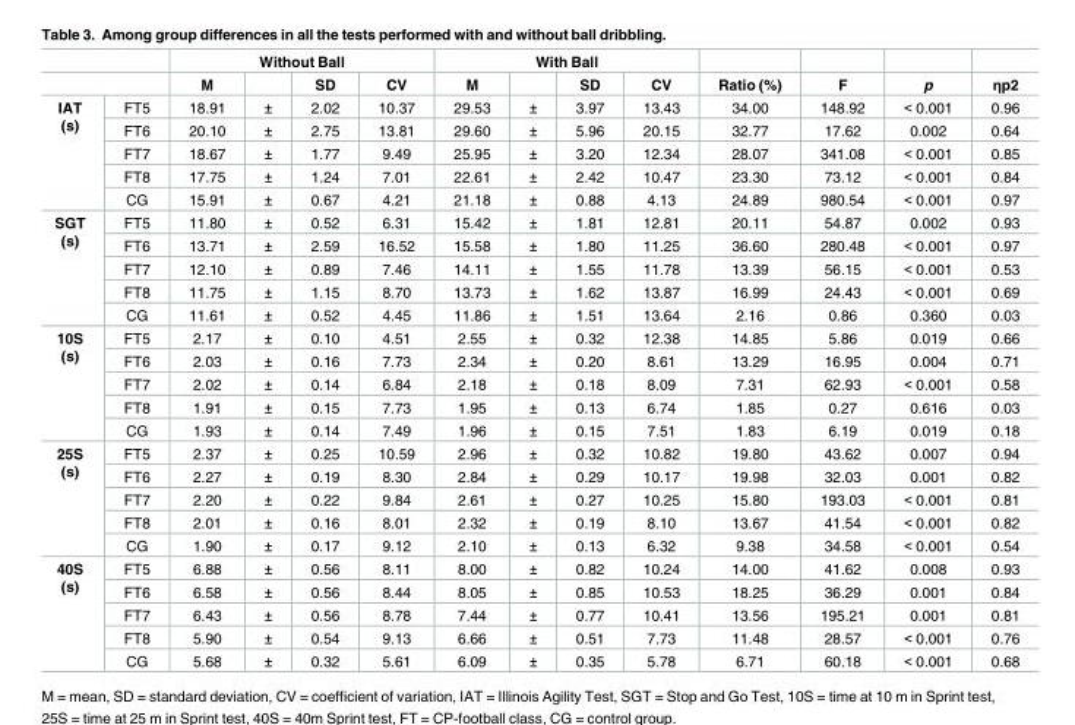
<table><thead><tr><td rowspan="2"></td><td rowspan="2"></td><td colspan="4">Without Ball</td><td colspan="4">With Ball</td><td rowspan="2">Ratio (%)</td><td rowspan="2">F</td><td rowspan="2">p</td><td rowspan="2">ηp2</td></tr><tr><td>M</td><td></td><td>SD</td><td>CV</td><td>M</td><td></td><td>SD</td><td>CV</td></tr></thead><tbody><tr><td rowspan="5">IAT (s)</td><td>FT5</td><td>18.91</td><td>±</td><td>2.02</td><td>10.37</td><td>29.53</td><td>±</td><td>3.97</td><td>13.43</td><td>34.00</td><td>148.92</td><td>&lt; 0.001</td><td>0.96</td></tr><tr><td>FT6</td><td>20.10</td><td>±</td><td>2.75</td><td>13.81</td><td>29.60</td><td>±</td><td>5.96</td><td>20.15</td><td>32.77</td><td>17.62</td><td>0.002</td><td>0.64</td></tr><tr><td>FT7</td><td>18.67</td><td>±</td><td>1.77</td><td>9.49</td><td>25.95</td><td>±</td><td>3.20</td><td>12.34</td><td>28.07</td><td>341.08</td><td>&lt; 0.001</td><td>0.85</td></tr><tr><td>FT8</td><td>17.75</td><td>±</td><td>1.24</td><td>7.01</td><td>22.61</td><td>±</td><td>2.42</td><td>10.47</td><td>23.30</td><td>73.12</td><td>&lt; 0.001</td><td>0.84</td></tr><tr><td>CG</td><td>15.91</td><td>±</td><td>0.67</td><td>4.21</td><td>21.18</td><td>±</td><td>0.88</td><td>4.13</td><td>24.89</td><td>980.54</td><td>&lt; 0.001</td><td>0.97</td></tr><tr><td rowspan="5">SGT (s)</td><td>FT5</td><td>11.80</td><td>±</td><td>0.52</td><td>6.31</td><td>15.42</td><td>±</td><td>1.81</td><td>12.81</td><td>20.11</td><td>54.87</td><td>0.002</td><td>0.93</td></tr><tr><td>FT6</td><td>13.71</td><td>±</td><td>2.59</td><td>16.52</td><td>15.58</td><td>±</td><td>1.80</td><td>11.25</td><td>36.60</td><td>280.48</td><td>&lt; 0.001</td><td>0.97</td></tr><tr><td>FT7</td><td>12.10</td><td>±</td><td>0.89</td><td>7.46</td><td>14.11</td><td>±</td><td>1.55</td><td>11.78</td><td>13.39</td><td>56.15</td><td>&lt; 0.001</td><td>0.53</td></tr><tr><td>FT8</td><td>11.75</td><td>±</td><td>1.15</td><td>8.70</td><td>13.73</td><td>±</td><td>1.62</td><td>13.87</td><td>16.99</td><td>24.43</td><td>&lt; 0.001</td><td>0.69</td></tr><tr><td>CG</td><td>11.61</td><td>±</td><td>0.52</td><td>4.45</td><td>11.86</td><td>±</td><td>1.51</td><td>13.64</td><td>2.16</td><td>0.86</td><td>0.360</td><td>0.03</td></tr><tr><td rowspan="5">10S (s)</td><td>FT5</td><td>2.17</td><td>±</td><td>0.10</td><td>4.51</td><td>2.55</td><td>±</td><td>0.32</td><td>12.38</td><td>14.85</td><td>5.86</td><td>0.019</td><td>0.66</td></tr><tr><td>FT6</td><td>2.03</td><td>±</td><td>0.16</td><td>7.73</td><td>2.34</td><td>±</td><td>0.20</td><td>8.61</td><td>13.29</td><td>16.95</td><td>0.004</td><td>0.71</td></tr><tr><td>FT7</td><td>2.02</td><td>±</td><td>0.14</td><td>6.84</td><td>2.18</td><td>±</td><td>0.18</td><td>8.09</td><td>7.31</td><td>62.93</td><td>&lt; 0.001</td><td>0.58</td></tr><tr><td>FT8</td><td>1.91</td><td>±</td><td>0.15</td><td>7.73</td><td>1.95</td><td>±</td><td>0.13</td><td>6.74</td><td>1.85</td><td>0.27</td><td>0.616</td><td>0.03</td></tr><tr><td>CG</td><td>1.93</td><td>±</td><td>0.14</td><td>7.49</td><td>1.96</td><td>±</td><td>0.15</td><td>7.51</td><td>1.83</td><td>6.19</td><td>0.019</td><td>0.18</td></tr><tr><td rowspan="5">25S (s)</td><td>FT5</td><td>2.37</td><td>±</td><td>0.25</td><td>10.59</td><td>2.96</td><td>±</td><td>0.32</td><td>10.82</td><td>19.80</td><td>43.62</td><td>0.007</td><td>0.94</td></tr><tr><td>FT6</td><td>2.27</td><td>±</td><td>0.19</td><td>8.30</td><td>2.84</td><td>±</td><td>0.29</td><td>10.17</td><td>19.98</td><td>32.03</td><td>0.001</td><td>0.82</td></tr><tr><td>FT7</td><td>2.20</td><td>±</td><td>0.22</td><td>9.84</td><td>2.61</td><td>±</td><td>0.27</td><td>10.25</td><td>15.80</td><td>193.03</td><td>&lt; 0.001</td><td>0.81</td></tr><tr><td>FT8</td><td>2.01</td><td>±</td><td>0.16</td><td>8.01</td><td>2.32</td><td>±</td><td>0.19</td><td>8.10</td><td>13.67</td><td>41.54</td><td>&lt; 0.001</td><td>0.82</td></tr><tr><td>CG</td><td>1.90</td><td>±</td><td>0.17</td><td>9.12</td><td>2.10</td><td>±</td><td>0.13</td><td>6.32</td><td>9.38</td><td>34.58</td><td>&lt; 0.001</td><td>0.54</td></tr><tr><td rowspan="5">40S (s)</td><td>FT5</td><td>6.88</td><td>±</td><td>0.56</td><td>8.11</td><td>8.00</td><td>±</td><td>0.82</td><td>10.24</td><td>14.00</td><td>41.62</td><td>0.008</td><td>0.93</td></tr><tr><td>FT6</td><td>6.58</td><td>±</td><td>0.56</td><td>8.44</td><td>8.05</td><td>±</td><td>0.85</td><td>10.53</td><td>18.25</td><td>36.29</td><td>0.001</td><td>0.84</td></tr><tr><td>FT7</td><td>6.43</td><td>±</td><td>0.56</td><td>8.78</td><td>7.44</td><td>±</td><td>0.77</td><td>10.41</td><td>13.56</td><td>195.21</td><td>0.001</td><td>0.81</td></tr><tr><td>FT8</td><td>5.90</td><td>±</td><td>0.54</td><td>9.13</td><td>6.66</td><td>±</td><td>0.51</td><td>7.73</td><td>11.48</td><td>28.57</td><td>&lt; 0.001</td><td>0.76</td></tr><tr><td>CG</td><td>5.68</td><td>±</td><td>0.32</td><td>5.61</td><td>6.09</td><td>±</td><td>0.35</td><td>5.78</td><td>6.71</td><td>60.18</td><td>&lt; 0.001</td><td>0.68</td></tr></tbody></table>